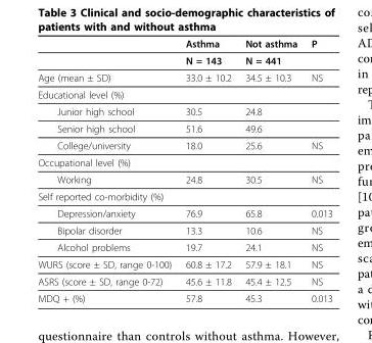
<table><thead><tr><td></td><td>Asthma</td><td>Not asthma</td><td>P</td></tr></thead><tbody><tr><td></td><td>N = 143</td><td>N = 441</td><td></td></tr><tr><td>Age (mean ± SD)</td><td>33.0 ± 10.2</td><td>34.5 ± 10.3</td><td>NS</td></tr><tr><td colspan="4">Educational level (%)</td></tr><tr><td>Junior high school</td><td>30.5</td><td>24.8</td><td></td></tr><tr><td>Senior high school</td><td>51.6</td><td>49.6</td><td></td></tr><tr><td>College/university</td><td>18.0</td><td>25.6</td><td>NS</td></tr><tr><td colspan="4">Occupational level (%)</td></tr><tr><td>Working</td><td>24.8</td><td>30.5</td><td>NS</td></tr><tr><td colspan="4">Self reported co-morbidity (%)</td></tr><tr><td>Depression/anxiety</td><td>76.9</td><td>65.8</td><td>0.013</td></tr><tr><td>Bipolar disorder</td><td>13.3</td><td>10.6</td><td>NS</td></tr><tr><td>Alcohol problems</td><td>19.7</td><td>24.1</td><td>NS</td></tr><tr><td>WURS (score ± SD, range 0-100)</td><td>60.8 ± 17.2</td><td>57.9 ± 18.1</td><td>NS</td></tr><tr><td>ASRS (score ± SD, range 0-72)</td><td>45.6 ± 11.8</td><td>45.4 ± 12.5</td><td>NS</td></tr><tr><td>MDQ + (%)</td><td>57.8</td><td>45.3</td><td>0.013</td></tr></tbody></table>